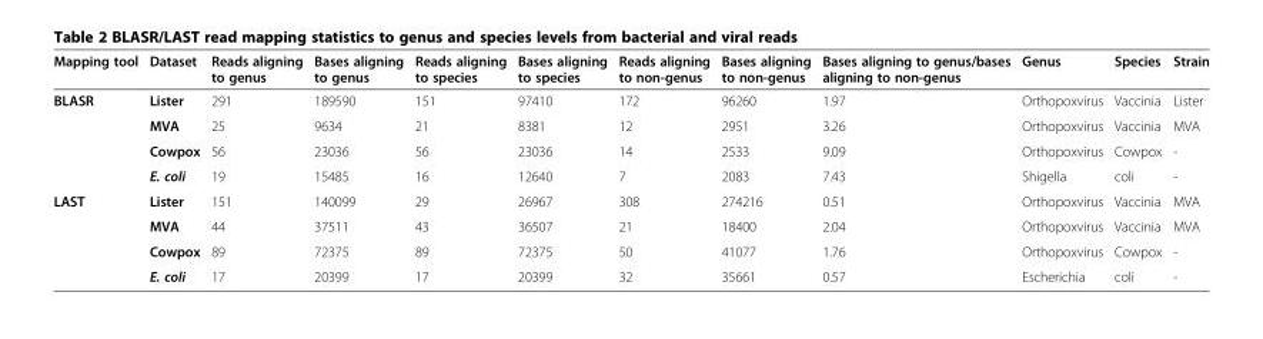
<table><thead><tr><td>Mapping tool</td><td>Dataset</td><td>Reads aligning to genus</td><td>Bases aligning to genus</td><td>Reads aligning to species</td><td>Bases aligning to species</td><td>Reads aligning to non-genus</td><td>Bases aligning to non-genus</td><td>Bases aligning to genus/bases aligning to non-genus</td><td>Genus</td><td>Species</td><td>Strain</td></tr></thead><tbody><tr><td rowspan="4">BLASR</td><td>Lister</td><td>291</td><td>189590</td><td>151</td><td>97410</td><td>172</td><td>96260</td><td>1.97</td><td>Orthopoxvirus</td><td>Vaccinia</td><td>Lister</td></tr><tr><td>MVA</td><td>25</td><td>9634</td><td>21</td><td>8381</td><td>12</td><td>2951</td><td>3.26</td><td>Orthopoxvirus</td><td>Vaccinia</td><td>MVA</td></tr><tr><td>Cowpox</td><td>56</td><td>23036</td><td>56</td><td>23036</td><td>14</td><td>2533</td><td>9.09</td><td>Orthopoxvirus</td><td>Cowpox</td><td>-</td></tr><tr><td>E. coli</td><td>19</td><td>15485</td><td>16</td><td>12640</td><td>7</td><td>2083</td><td>7.43</td><td>Shigella</td><td>coli</td><td>-</td></tr><tr><td rowspan="4">LAST</td><td>Lister</td><td>151</td><td>140099</td><td>29</td><td>26967</td><td>308</td><td>274216</td><td>0.51</td><td>Orthopoxvirus</td><td>Vaccinia</td><td>MVA</td></tr><tr><td>MVA</td><td>44</td><td>37511</td><td>43</td><td>36507</td><td>21</td><td>18400</td><td>2.04</td><td>Orthopoxvirus</td><td>Vaccinia</td><td>MVA</td></tr><tr><td>Cowpox</td><td>89</td><td>72375</td><td>89</td><td>72375</td><td>50</td><td>41077</td><td>1.76</td><td>Orthopoxvirus</td><td>Cowpox</td><td>-</td></tr><tr><td>E. coli</td><td>17</td><td>20399</td><td>17</td><td>20399</td><td>32</td><td>35661</td><td>0.57</td><td>Escherichia</td><td>coli</td><td>-</td></tr></tbody></table>